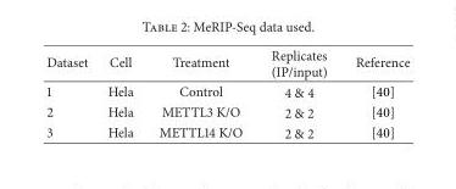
<table><thead><tr><td>Dataset</td><td>Cell</td><td>Treatment</td><td>Replicates (IP/input)</td><td>Reference</td></tr></thead><tbody><tr><td>1</td><td>Hela</td><td>Control</td><td>4 &amp; 4</td><td>[40]</td></tr><tr><td>2</td><td>Hela</td><td>METTL3 K/O</td><td>2 &amp; 2</td><td>[40]</td></tr><tr><td>3</td><td>Hela</td><td>METTL14 K/O</td><td>2 &amp; 2</td><td>[40]</td></tr></tbody></table>